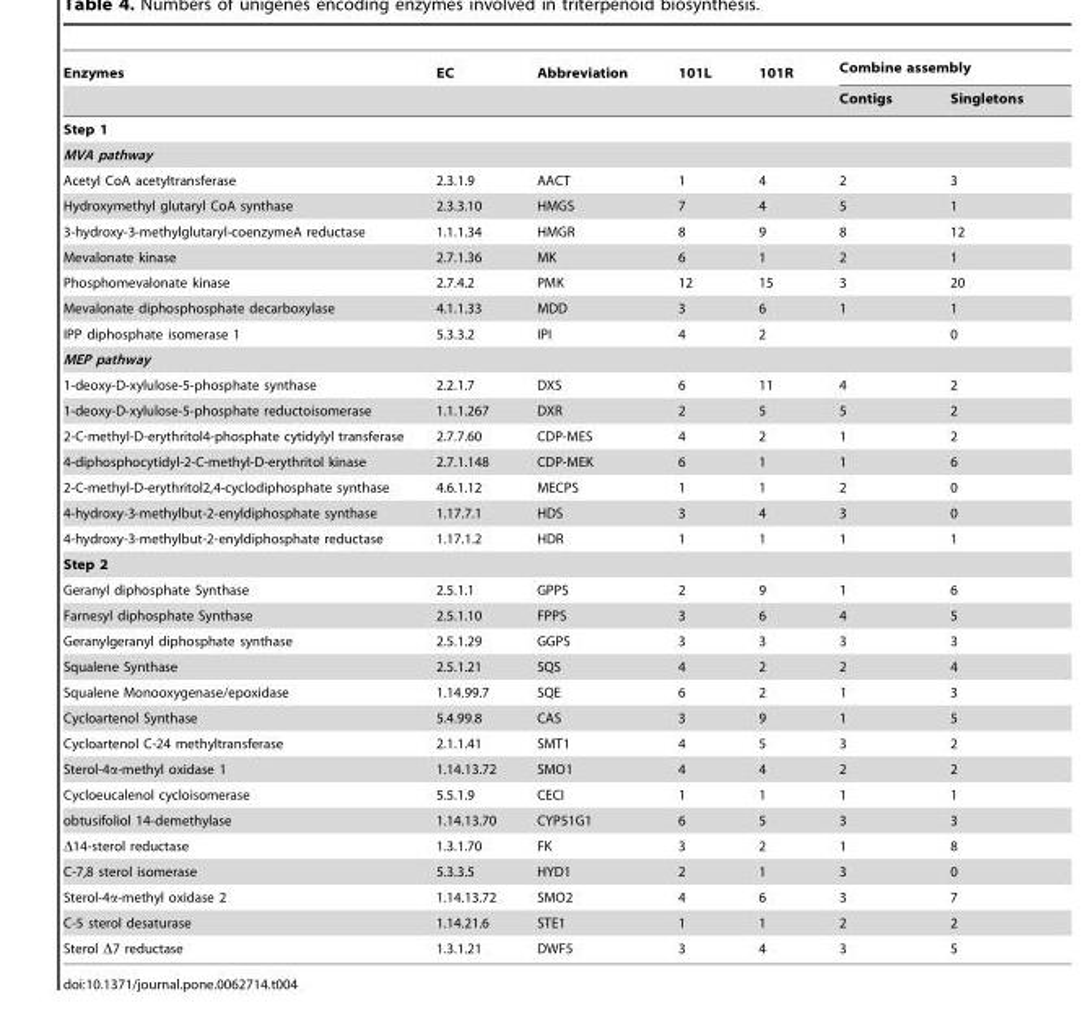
<table><thead><tr><td rowspan="2">Enzymes</td><td rowspan="2">EC</td><td rowspan="2">Abbreviation</td><td rowspan="2">101L</td><td rowspan="2">101R</td><td colspan="2">Combine assembly</td></tr><tr><td>Contigs</td><td>Singletons</td></tr></thead><tbody><tr><td colspan="7">Step 1</td></tr><tr><td colspan="7">MVA pathway</td></tr><tr><td>Acetyl CoA acetyltransferase</td><td>2.3.1.9</td><td>AACT</td><td>1</td><td>4</td><td>2</td><td>3</td></tr><tr><td>Hydroxymethyl glutaryl CoA synthase</td><td>2.3.3.10</td><td>HMGS</td><td>7</td><td>4</td><td>5</td><td>1</td></tr><tr><td>3-hydroxy-3-methylglutaryl-coenzymeA reductase</td><td>1.1.1.34</td><td>HMGR</td><td>8</td><td>9</td><td>8</td><td>12</td></tr><tr><td>Mevalonate kinase</td><td>2.7.1.36</td><td>MK</td><td>6</td><td>1</td><td>2</td><td>1</td></tr><tr><td>Phosphomevalonate kinase</td><td>2.7.4.2</td><td>PMK</td><td>12</td><td>15</td><td>3</td><td>20</td></tr><tr><td>Mevalonate diphosphosphate decarboxylase</td><td>4.1.1.33</td><td>MDD</td><td>3</td><td>6</td><td>1</td><td>1</td></tr><tr><td>IPP diphosphate isomerase 1</td><td>5.3.3.2</td><td>IPI</td><td>4</td><td>2</td><td></td><td>0</td></tr><tr><td colspan="7">MEP pathway</td></tr><tr><td>1-deoxy-D-xylulose-5-phosphate synthase</td><td>2.2.1.7</td><td>DXS</td><td>6</td><td>11</td><td>4</td><td>2</td></tr><tr><td>1-deoxy-D-xylulose-5-phosphate reductoisomerase</td><td>1.1.1.267</td><td>DXR</td><td>2</td><td>5</td><td>5</td><td>2</td></tr><tr><td>2-C-methyl-D-erythritol4-phosphate cytidylyl transferase</td><td>2.7.7.60</td><td>CDP-MES</td><td>4</td><td>2</td><td>1</td><td>2</td></tr><tr><td>4-diphosphocytidyl-2-C-methyl-D-erythritol kinase</td><td>2.7.1.148</td><td>CDP-MEK</td><td>6</td><td>1</td><td>1</td><td>6</td></tr><tr><td>2-C-methyl-D-erythritol2,4-cyclodiphosphate synthase</td><td>4.6.1.12</td><td>MECPS</td><td>1</td><td>1</td><td>2</td><td>0</td></tr><tr><td>4-hydroxy-3-methylbut-2-enyldiphosphate synthase</td><td>1.17.7.1</td><td>HDS</td><td>3</td><td>4</td><td>3</td><td>0</td></tr><tr><td>4-hydroxy-3-methylbut-2-enyldiphosphate reductase</td><td>1.17.1.2</td><td>HDR</td><td>1</td><td>1</td><td>1</td><td>1</td></tr><tr><td colspan="7">Step 2</td></tr><tr><td>Geranyl diphosphate Synthase</td><td>2.5.1.1</td><td>GPPS</td><td>2</td><td>9</td><td>1</td><td>6</td></tr><tr><td>Farnesyl diphosphate Synthase</td><td>2.5.1.10</td><td>FPPS</td><td>3</td><td>6</td><td>4</td><td>5</td></tr><tr><td>Geranylgeranyl diphosphate synthase</td><td>2.5.1.29</td><td>GGPS</td><td>3</td><td>3</td><td>3</td><td>3</td></tr><tr><td>Squalene Synthase</td><td>2.5.1.21</td><td>SQS</td><td>4</td><td>2</td><td>2</td><td>4</td></tr><tr><td>Squalene Monooxygenase/epoxidase</td><td>1.14.99.7</td><td>SQE</td><td>6</td><td>2</td><td>1</td><td>3</td></tr><tr><td>Cycloartenol Synthase</td><td>5.4.99.8</td><td>CAS</td><td>3</td><td>9</td><td>1</td><td>5</td></tr><tr><td>Cycloartenol C-24 methyltransferase</td><td>2.1.1.41</td><td>SMT1</td><td>4</td><td>5</td><td>3</td><td>2</td></tr><tr><td>Sterol-4α-methyl oxidase 1</td><td>1.14.13.72</td><td>SMO1</td><td>4</td><td>4</td><td>2</td><td>2</td></tr><tr><td>Cycloeucalenol cycloisomerase</td><td>5.5.1.9</td><td>CECI</td><td>1</td><td>1</td><td>1</td><td>1</td></tr><tr><td>obtusifoliol 14-demethylase</td><td>1.14.13.70</td><td>CYP51G1</td><td>6</td><td>5</td><td>3</td><td>3</td></tr><tr><td>Δ14-sterol reductase</td><td>1.3.1.70</td><td>FK</td><td>3</td><td>2</td><td>1</td><td>8</td></tr><tr><td>C-7,8 sterol isomerase</td><td>5.3.3.5</td><td>HYD1</td><td>2</td><td>1</td><td>3</td><td>0</td></tr><tr><td>Sterol-4α-methyl oxidase 2</td><td>1.14.13.72</td><td>SMO2</td><td>4</td><td>6</td><td>3</td><td>7</td></tr><tr><td>C-5 sterol desaturase</td><td>1.14.21.6</td><td>STE1</td><td>1</td><td>1</td><td>2</td><td>2</td></tr><tr><td>Sterol Δ7 reductase</td><td>1.3.1.21</td><td>DWF5</td><td>3</td><td>4</td><td>3</td><td>5</td></tr></tbody></table>